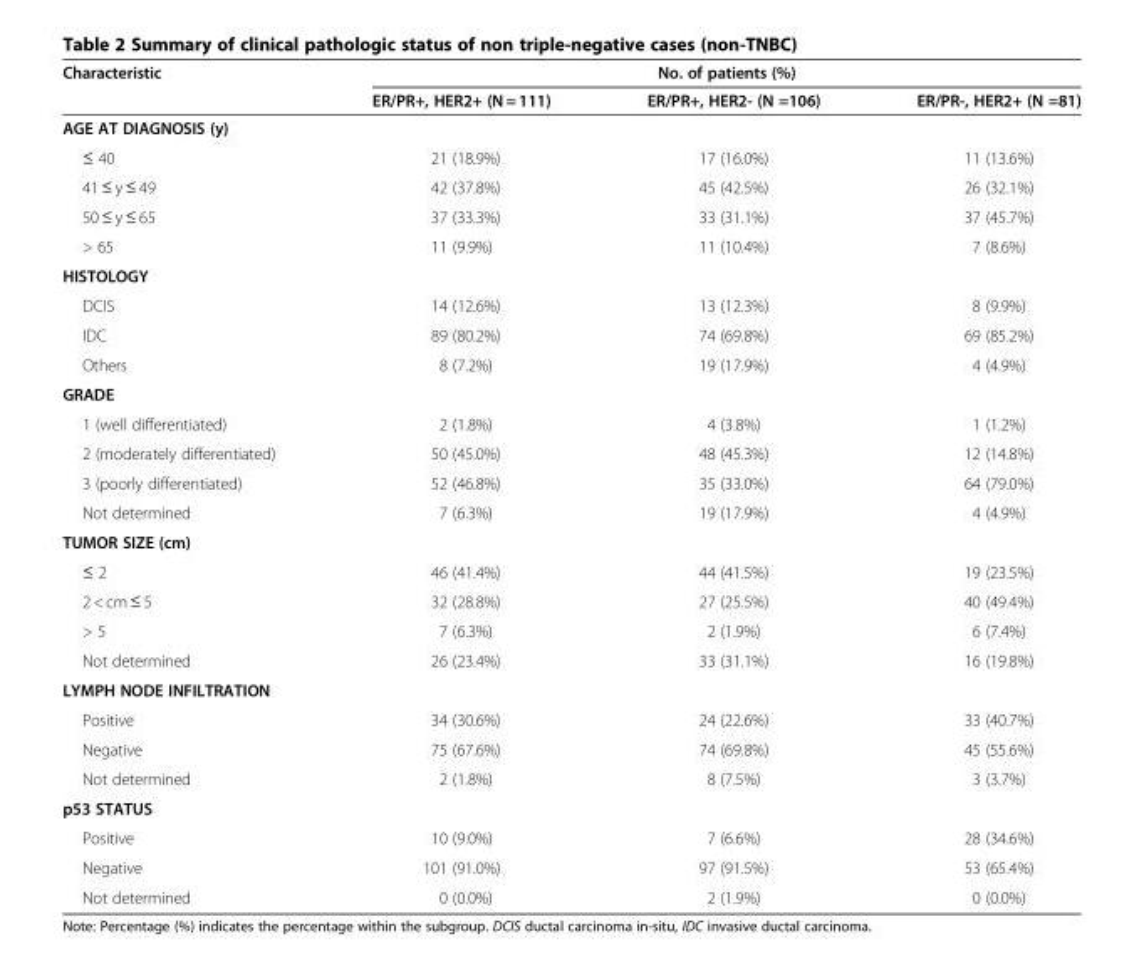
<table><thead><tr><td rowspan="2">Characteristic</td><td rowspan="2">ER/PR+, HER2+ (N = 111)</td><td rowspan="2">No. of patients (%) ER/PR+, HER2- (N =106)</td><td rowspan="2">ER/PR-, HER2+ (N =81)</td></tr><tr></tr></thead><tbody><tr><td colspan="4">AGE AT DIAGNOSIS (y)</td></tr><tr><td>≤ 40</td><td>21 (18.9%)</td><td>17 (16.0%)</td><td>11 (13.6%)</td></tr><tr><td>41 ≤ y ≤ 49</td><td>42 (37.8%)</td><td>45 (42.5%)</td><td>26 (32.1%)</td></tr><tr><td>50 ≤ y ≤ 65</td><td>37 (33.3%)</td><td>33 (31.1%)</td><td>37 (45.7%)</td></tr><tr><td>&gt; 65</td><td>11 (9.9%)</td><td>11 (10.4%)</td><td>7 (8.6%)</td></tr><tr><td colspan="4">HISTOLOGY</td></tr><tr><td>DCIS</td><td>14 (12.6%)</td><td>13 (12.3%)</td><td>8 (9.9%)</td></tr><tr><td>IDC</td><td>89 (80.2%)</td><td>74 (69.8%)</td><td>69 (85.2%)</td></tr><tr><td>Others</td><td>8 (7.2%)</td><td>19 (17.9%)</td><td>4 (4.9%)</td></tr><tr><td colspan="4">GRADE</td></tr><tr><td>1 (well differentiated)</td><td>2 (1.8%)</td><td>4 (3.8%)</td><td>1 (1.2%)</td></tr><tr><td>2 (moderately differentiated)</td><td>50 (45.0%)</td><td>48 (45.3%)</td><td>12 (14.8%)</td></tr><tr><td>3 (poorly differentiated)</td><td>52 (46.8%)</td><td>35 (33.0%)</td><td>64 (79.0%)</td></tr><tr><td>Not determined</td><td>7 (6.3%)</td><td>19 (17.9%)</td><td>4 (4.9%)</td></tr><tr><td colspan="4">TUMOR SIZE (cm)</td></tr><tr><td>≤ 2</td><td>46 (41.4%)</td><td>44 (41.5%)</td><td>19 (23.5%)</td></tr><tr><td>2 &lt; cm ≤ 5</td><td>32 (28.8%)</td><td>27 (25.5%)</td><td>40 (49.4%)</td></tr><tr><td>&gt; 5</td><td>7 (6.3%)</td><td>2 (1.9%)</td><td>6 (7.4%)</td></tr><tr><td>Not determined</td><td>26 (23.4%)</td><td>33 (31.1%)</td><td>16 (19.8%)</td></tr><tr><td colspan="4">LYMPH NODE INFILTRATION</td></tr><tr><td>Positive</td><td>34 (30.6%)</td><td>24 (22.6%)</td><td>33 (40.7%)</td></tr><tr><td>Negative</td><td>75 (67.6%)</td><td>74 (69.8%)</td><td>45 (55.6%)</td></tr><tr><td>Not determined</td><td>2 (1.8%)</td><td>8 (7.5%)</td><td>3 (3.7%)</td></tr><tr><td colspan="4">p53 STATUS</td></tr><tr><td>Positive</td><td>10 (9.0%)</td><td>7 (6.6%)</td><td>28 (34.6%)</td></tr><tr><td>Negative</td><td>101 (91.0%)</td><td>97 (91.5%)</td><td>53 (65.4%)</td></tr><tr><td>Not determined</td><td>0 (0.0%)</td><td>2 (1.9%)</td><td>0 (0.0%)</td></tr></tbody></table>